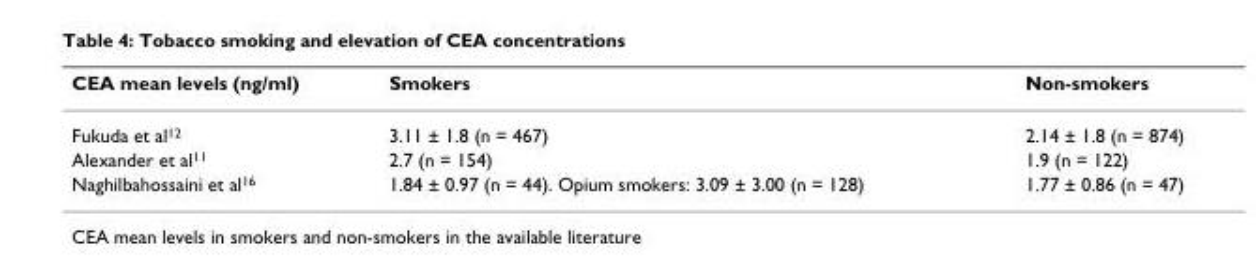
<table><thead><tr><td>CEA mean levels (ng/ml)</td><td>Smokers</td><td>Non-smokers</td></tr></thead><tbody><tr><td>Fukuda et al<sup>12</sup></td><td>3.11 ± 1.8 (n = 467)</td><td>2.14 ± 1.8 (n = 874)</td></tr><tr><td>Alexander et al<sup>11</sup></td><td>2.7 (n = 154)</td><td>1.9 (n = 122)</td></tr><tr><td>Naghilbahossaini et al<sup>16</sup></td><td>1.84 ± 0.97 (n = 44). Opium smokers: 3.09 ± 3.00 (n = 128)</td><td>1.77 ± 0.86 (n = 47)</td></tr></tbody></table>